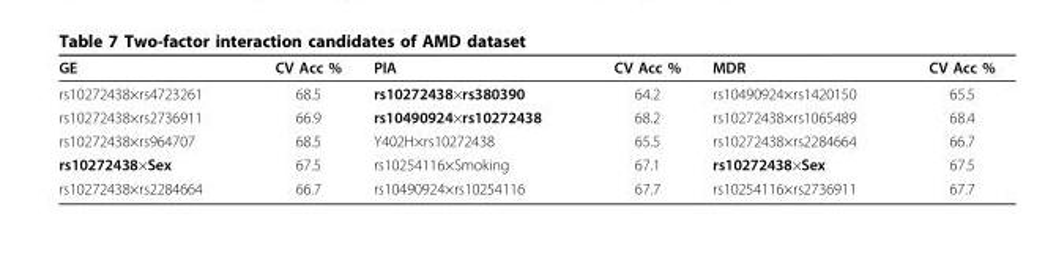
<table><thead><tr><td>GE</td><td>CV Acc %</td><td>PIA</td><td>CV Acc %</td><td>MDR</td><td>CV Acc %</td></tr></thead><tbody><tr><td>rs10272438×rs4723261</td><td>68.5</td><td>rs10272438×rs380390</td><td>64.2</td><td>rs10490924×rs1420150</td><td>65.5</td></tr><tr><td>rs10272438×rs2736911</td><td>66.9</td><td>rs10490924×rs10272438</td><td>68.2</td><td>rs10272438×rs1065489</td><td>68.4</td></tr><tr><td>rs10272438×rs964707</td><td>68.5</td><td>Y402H×rs10272438</td><td>65.5</td><td>rs10272438×rs2284664</td><td>66.7</td></tr><tr><td>rs10272438×Sex</td><td>67.5</td><td>rs10254116×Smoking</td><td>67.1</td><td>rs10272438×Sex</td><td>67.5</td></tr><tr><td>rs10272438×rs2284664</td><td>66.7</td><td>rs10490924×rs10254116</td><td>67.7</td><td>rs10254116×rs2736911</td><td>67.7</td></tr></tbody></table>